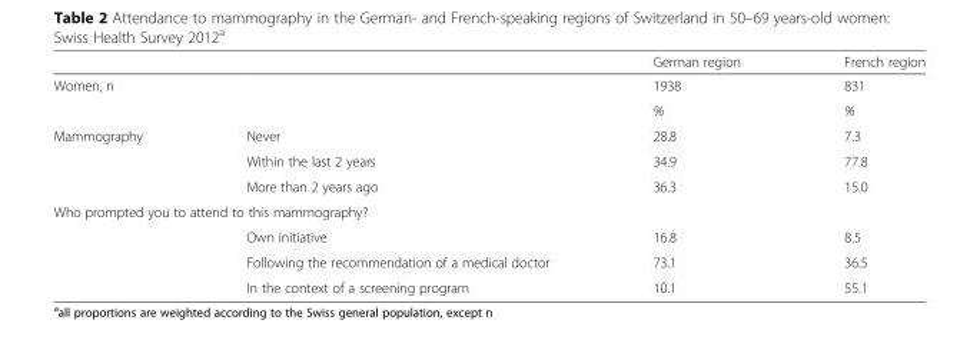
<table><thead><tr><td></td><td></td><td>German region</td><td>French region</td></tr></thead><tbody><tr><td rowspan="2">Women, n</td><td></td><td>1938</td><td>831</td></tr><tr><td></td><td>%</td><td>%</td></tr><tr><td rowspan="3">Mammography</td><td>Never</td><td>28.8</td><td>7.3</td></tr><tr><td>Within the last 2 years</td><td>34.9</td><td>77.8</td></tr><tr><td>More than 2 years ago</td><td>36.3</td><td>15.0</td></tr><tr><td colspan="4">Who prompted you to attend to this mammography?</td></tr><tr><td></td><td>Own initiative</td><td>16.8</td><td>8.5</td></tr><tr><td></td><td>Following the recommendation of a medical doctor</td><td>73.1</td><td>36.5</td></tr><tr><td></td><td>In the context of a screening program</td><td>10.1</td><td>55.1</td></tr></tbody></table>